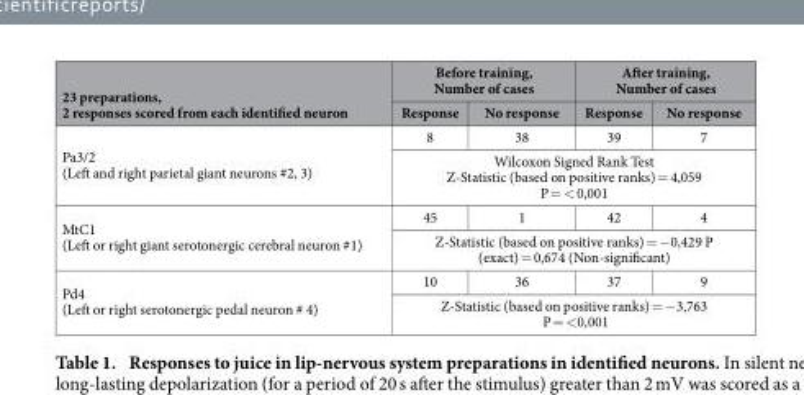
<table><thead><tr><td rowspan="2">23 preparations, 2 responses scored from each identified neuron</td><td colspan="2">Before training, Number of cases</td><td colspan="2">After training, Number of cases</td></tr><tr><td>Response</td><td>No response</td><td>Response</td><td>No response</td></tr></thead><tbody><tr><td rowspan="2">Pa3/2 (Left and right parietal giant neurons #2, 3)</td><td>8</td><td>38</td><td>39</td><td>7</td></tr><tr><td colspan="4">Wilcoxon Signed Rank Test Z-Statistic (based on positive ranks) = 4,059 P = &lt; 0,001</td></tr><tr><td rowspan="2">MtC1 (Left or right giant serotonergic cerebral neuron #1)</td><td>45</td><td>1</td><td>42</td><td>4</td></tr><tr><td colspan="4">Z-Statistic (based on positive ranks) = − 0,429 P (exact) = 0,674 (Non-significant)</td></tr><tr><td rowspan="2">Pd4 (Left or right serotonergic pedal neuron # 4)</td><td>10</td><td>36</td><td>37</td><td>9</td></tr><tr><td colspan="4">Z-Statistic (based on positive ranks) = − 3,763 P = &lt; 0,001</td></tr></tbody></table>